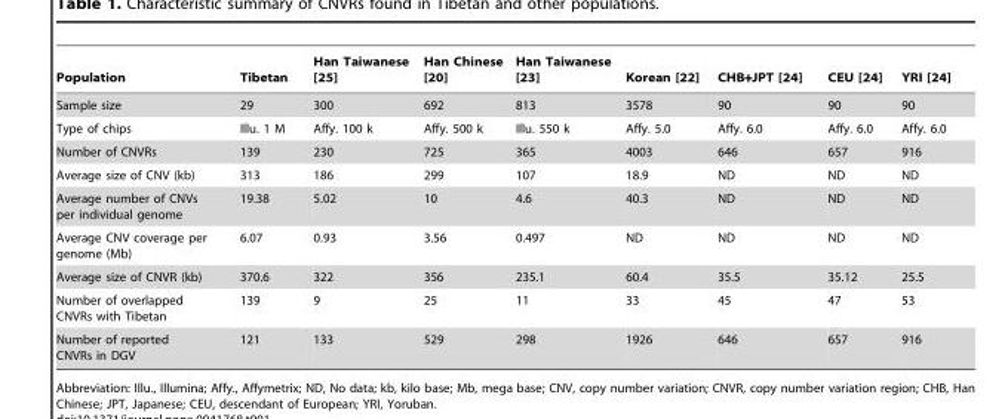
<table><thead><tr><td>Population</td><td>Tibetan</td><td>Han Taiwanese [25]</td><td>Han Chinese [20]</td><td>Han Taiwanese [23]</td><td>Korean [22]</td><td>CHB+JPT [24]</td><td>CEU [24]</td><td>YRI [24]</td></tr></thead><tbody><tr><td>Sample size</td><td>29</td><td>300</td><td>692</td><td>813</td><td>3578</td><td>90</td><td>90</td><td>90</td></tr><tr><td>Type of chips</td><td>Illu. 1 M</td><td>Affy. 100 k</td><td>Affy. 500 k</td><td>Illu. 550 k</td><td>Affy. 5.0</td><td>Affy. 6.0</td><td>Affy. 6.0</td><td>Affy. 6.0</td></tr><tr><td>Number of CNVRs</td><td>139</td><td>230</td><td>725</td><td>365</td><td>4003</td><td>646</td><td>657</td><td>916</td></tr><tr><td>Average size of CNV (kb)</td><td>313</td><td>186</td><td>299</td><td>107</td><td>18.9</td><td>ND</td><td>ND</td><td>ND</td></tr><tr><td>Average number of CNVs per individual genome</td><td>19.38</td><td>5.02</td><td>10</td><td>4.6</td><td>40.3</td><td>ND</td><td>ND</td><td>ND</td></tr><tr><td>Average CNV coverage per genome (Mb)</td><td>6.07</td><td>0.93</td><td>3.56</td><td>0.497</td><td>ND</td><td>ND</td><td>ND</td><td>ND</td></tr><tr><td>Average size of CNVR (kb)</td><td>370.6</td><td>322</td><td>356</td><td>235.1</td><td>60.4</td><td>35.5</td><td>35.12</td><td>25.5</td></tr><tr><td>Number of overlapped CNVRs with Tibetan</td><td>139</td><td>9</td><td>25</td><td>11</td><td>33</td><td>45</td><td>47</td><td>53</td></tr><tr><td>Number of reported CNVRs in DGV</td><td>121</td><td>133</td><td>529</td><td>298</td><td>1926</td><td>646</td><td>657</td><td>916</td></tr></tbody></table>